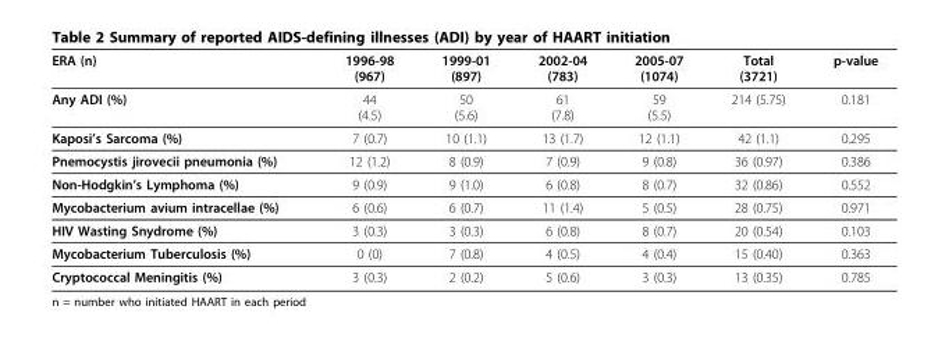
<table><thead><tr><td>ERA (n)</td><td>1996-98 (967)</td><td>1999-01 (897)</td><td>2002-04 (783)</td><td>2005-07 (1074)</td><td>Total (3721)</td><td>p-value</td></tr></thead><tbody><tr><td>Any ADI (%)</td><td>44 (4.5)</td><td>50 (5.6)</td><td>61 (7.8)</td><td>59 (5.5)</td><td>214 (5.75)</td><td>0.181</td></tr><tr><td>Kaposi’s Sarcoma (%)</td><td>7 (0.7)</td><td>10 (1.1)</td><td>13 (1.7)</td><td>12 (1.1)</td><td>42 (1.1)</td><td>0.295</td></tr><tr><td>Pnemocystis jirovecii pneumonia (%)</td><td>12 (1.2)</td><td>8 (0.9)</td><td>7 (0.9)</td><td>9 (0.8)</td><td>36 (0.97)</td><td>0.386</td></tr><tr><td>Non-Hodgkin’s Lymphoma (%)</td><td>9 (0.9)</td><td>9 (1.0)</td><td>6 (0.8)</td><td>8 (0.7)</td><td>32 (0.86)</td><td>0.552</td></tr><tr><td>Mycobacterium avium intracellae (%)</td><td>6 (0.6)</td><td>6 (0.7)</td><td>11 (1.4)</td><td>5 (0.5)</td><td>28 (0.75)</td><td>0.971</td></tr><tr><td>HIV Wasting Snydrome (%)</td><td>3 (0.3)</td><td>3 (0.3)</td><td>6 (0.8)</td><td>8 (0.7)</td><td>20 (0.54)</td><td>0.103</td></tr><tr><td>Mycobacterium Tuberculosis (%)</td><td>0 (0)</td><td>7 (0.8)</td><td>4 (0.5)</td><td>4 (0.4)</td><td>15 (0.40)</td><td>0.363</td></tr><tr><td>Cryptococcal Meningitis (%)</td><td>3 (0.3)</td><td>2 (0.2)</td><td>5 (0.6)</td><td>3 (0.3)</td><td>13 (0.35)</td><td>0.785</td></tr></tbody></table>